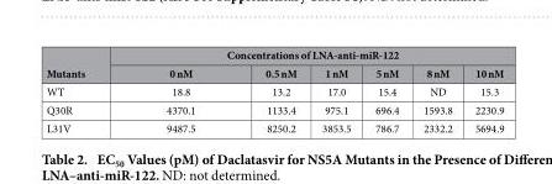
<table><thead><tr><td rowspan="2">Mutants</td><td colspan="6">Concentrations of LNA-anti-miR-122</td></tr><tr><td>0 nM</td><td>0.5 nM</td><td>1 nM</td><td>5 nM</td><td>8 nM</td><td>10 nM</td></tr></thead><tbody><tr><td>WT</td><td>18.8</td><td>13.2</td><td>17.0</td><td>15.4</td><td>ND</td><td>15.3</td></tr><tr><td>Q30R</td><td>4370.1</td><td>1133.4</td><td>975.1</td><td>696.4</td><td>1593.8</td><td>2230.9</td></tr><tr><td>L31V</td><td>9487.5</td><td>8250.2</td><td>3853.5</td><td>786.7</td><td>2332.2</td><td>5694.9</td></tr></tbody></table>